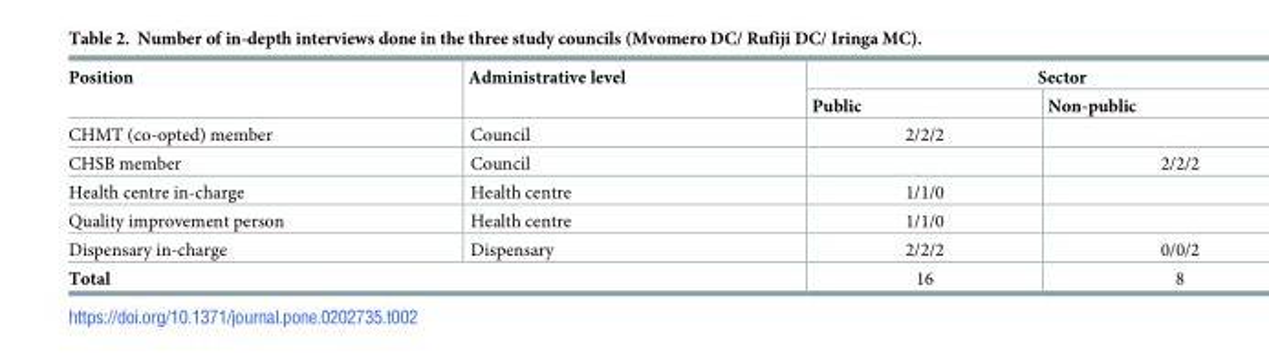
<table><thead><tr><td rowspan="2">Position</td><td rowspan="2">Administrative level</td><td colspan="2">Sector</td></tr><tr><td>Public</td><td>Non-public</td></tr></thead><tbody><tr><td>CHMT (co-opted) member</td><td>Council</td><td>2/2/2</td><td></td></tr><tr><td>CHSB member</td><td>Council</td><td></td><td>2/2/2</td></tr><tr><td>Health centre in-charge</td><td>Health centre</td><td>1/1/0</td><td></td></tr><tr><td>Quality improvement person</td><td>Health centre</td><td>1/1/0</td><td></td></tr><tr><td>Dispensary in-charge</td><td>Dispensary</td><td>2/2/2</td><td>0/0/2</td></tr><tr><td colspan="2">Total</td><td>16</td><td>8</td></tr></tbody></table>